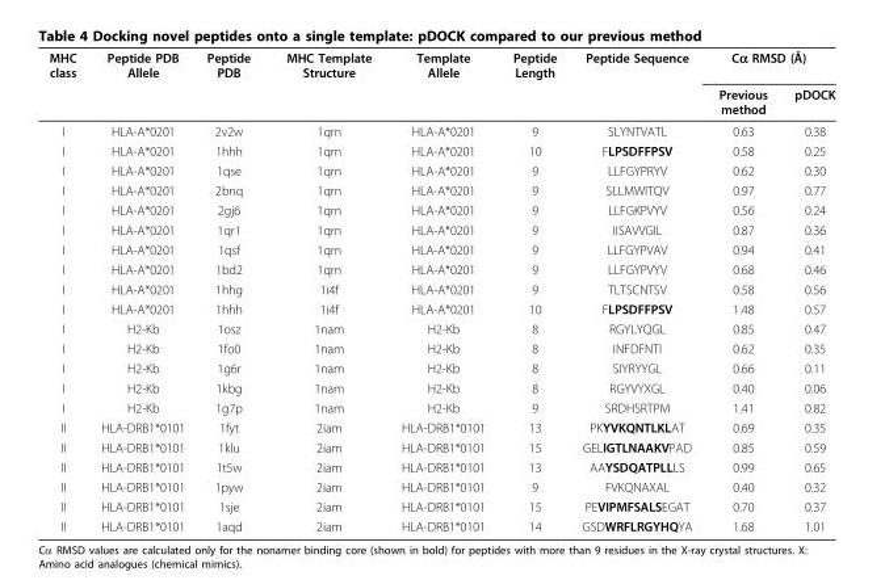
<table><thead><tr><td rowspan="2">MHC class</td><td rowspan="2">Peptide PDB Allele</td><td rowspan="2">Peptide PDB</td><td rowspan="2">MHC Template Structure</td><td rowspan="2">Template Allele</td><td rowspan="2">Peptide Length</td><td rowspan="2">Peptide Sequence</td><td colspan="2">Cα RMSD (Å)</td></tr><tr><td>Previous method</td><td>pDOCK</td></tr></thead><tbody><tr><td>I</td><td>HLA-A*0201</td><td>2v2w</td><td>1qrn</td><td>HLA-A*0201</td><td>9</td><td>SLYNTVATL</td><td>0.63</td><td>0.38</td></tr><tr><td>I</td><td>HLA-A*0201</td><td>1hhh</td><td>1qrn</td><td>HLA-A*0201</td><td>10</td><td>FLPSDFFPSV</td><td>0.58</td><td>0.25</td></tr><tr><td>I</td><td>HLA-A*0201</td><td>1qse</td><td>1qrn</td><td>HLA-A*0201</td><td>9</td><td>LLFGYPRYV</td><td>0.62</td><td>0.30</td></tr><tr><td>I</td><td>HLA-A*0201</td><td>2bnq</td><td>1qrn</td><td>HLA-A*0201</td><td>9</td><td>SLLMWITQV</td><td>0.97</td><td>0.77</td></tr><tr><td>I</td><td>HLA-A*0201</td><td>2gj6</td><td>1qrn</td><td>HLA-A*0201</td><td>9</td><td>LLFGKPVYV</td><td>0.56</td><td>0.24</td></tr><tr><td>I</td><td>HLA-A*0201</td><td>1qr1</td><td>1qrn</td><td>HLA-A*0201</td><td>9</td><td>IISAVVGIL</td><td>0.87</td><td>0.36</td></tr><tr><td>I</td><td>HLA-A*0201</td><td>1qsf</td><td>1qrn</td><td>HLA-A*0201</td><td>9</td><td>LLFGYPVAV</td><td>0.94</td><td>0.41</td></tr><tr><td>I</td><td>HLA-A*0201</td><td>1bd2</td><td>1qrn</td><td>HLA-A*0201</td><td>9</td><td>LLFGYPVYV</td><td>0.68</td><td>0.46</td></tr><tr><td>I</td><td>HLA-A*0201</td><td>1hhg</td><td>1i4f</td><td>HLA-A*0201</td><td>9</td><td>TLTSCNTSV</td><td>0.58</td><td>0.56</td></tr><tr><td>I</td><td>HLA-A*0201</td><td>1hhh</td><td>1i4f</td><td>HLA-A*0201</td><td>10</td><td>FLPSDFFPSV</td><td>1.48</td><td>0.57</td></tr><tr><td>I</td><td>H2-Kb</td><td>1osz</td><td>1nam</td><td>H2-Kb</td><td>8</td><td>RGYLYQGL</td><td>0.85</td><td>0.47</td></tr><tr><td>I</td><td>H2-Kb</td><td>1fo0</td><td>1nam</td><td>H2-Kb</td><td>8</td><td>INFDFNTI</td><td>0.62</td><td>0.35</td></tr><tr><td>I</td><td>H2-Kb</td><td>1g6r</td><td>1nam</td><td>H2-Kb</td><td>8</td><td>SIYRYYGL</td><td>0.66</td><td>0.11</td></tr><tr><td>I</td><td>H2-Kb</td><td>1kbg</td><td>1nam</td><td>H2-Kb</td><td>8</td><td>RGYVYXGL</td><td>0.40</td><td>0.06</td></tr><tr><td>I</td><td>H2-Kb</td><td>1g7p</td><td>1nam</td><td>H2-Kb</td><td>9</td><td>SRDHSRTPM</td><td>1.41</td><td>0.82</td></tr><tr><td>II</td><td>HLA-DRB1*0101</td><td>1fyt</td><td>2iam</td><td>HLA-DRB1*0101</td><td>13</td><td>PKYVKQNTLKLAT</td><td>0.69</td><td>0.35</td></tr><tr><td>II</td><td>HLA-DRB1*0101</td><td>1klu</td><td>2iam</td><td>HLA-DRB1*0101</td><td>15</td><td>GELIGTLNAAKVPAD</td><td>0.85</td><td>0.59</td></tr><tr><td>II</td><td>HLA-DRB1*0101</td><td>1t5w</td><td>2iam</td><td>HLA-DRB1*0101</td><td>13</td><td>AAYSDQATPLLLS</td><td>0.99</td><td>0.65</td></tr><tr><td>II</td><td>HLA-DRB1*0101</td><td>1pyw</td><td>2iam</td><td>HLA-DRB1*0101</td><td>9</td><td>FVKQNAXAL</td><td>0.40</td><td>0.32</td></tr><tr><td>II</td><td>HLA-DRB1*0101</td><td>1sje</td><td>2iam</td><td>HLA-DRB1*0101</td><td>15</td><td>PEVIPMFSALSEGAT</td><td>0.70</td><td>0.37</td></tr><tr><td>II</td><td>HLA-DRB1*0101</td><td>1aqd</td><td>2iam</td><td>HLA-DRB1*0101</td><td>14</td><td>GSDWRFLRGYHQYA</td><td>1.68</td><td>1.01</td></tr></tbody></table>